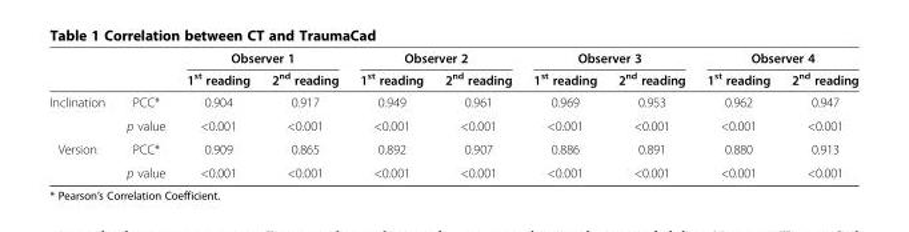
<table><thead><tr><td rowspan="2"></td><td rowspan="2"></td><td colspan="2">Observer 1</td><td colspan="2">Observer 2</td><td colspan="2">Observer 3</td><td colspan="2">Observer 4</td></tr><tr><td>1<sup>st</sup> reading</td><td>2<sup>nd</sup> reading</td><td>1<sup>st</sup> reading</td><td>2<sup>nd</sup> reading</td><td>1<sup>st</sup> reading</td><td>2<sup>nd</sup> reading</td><td>1<sup>st</sup> reading</td><td>2<sup>nd</sup> reading</td></tr></thead><tbody><tr><td rowspan="2">Inclination</td><td>PCC*</td><td>0.904</td><td>0.917</td><td>0.949</td><td>0.961</td><td>0.969</td><td>0.953</td><td>0.962</td><td>0.947</td></tr><tr><td>p value</td><td>&lt;0.001</td><td>&lt;0.001</td><td>&lt;0.001</td><td>&lt;0.001</td><td>&lt;0.001</td><td>&lt;0.001</td><td>&lt;0.001</td><td>&lt;0.001</td></tr><tr><td rowspan="2">Version</td><td>PCC*</td><td>0.909</td><td>0.865</td><td>0.892</td><td>0.907</td><td>0.886</td><td>0.891</td><td>0.880</td><td>0.913</td></tr><tr><td>p value</td><td>&lt;0.001</td><td>&lt;0.001</td><td>&lt;0.001</td><td>&lt;0.001</td><td>&lt;0.001</td><td>&lt;0.001</td><td>&lt;0.001</td><td>&lt;0.001</td></tr></tbody></table>